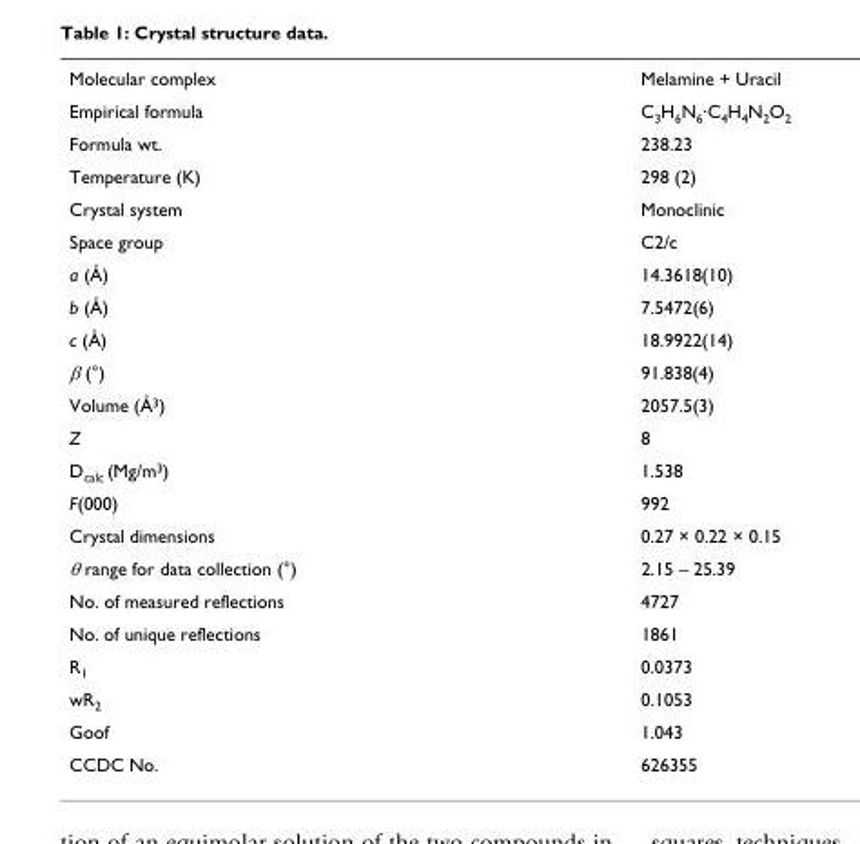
<table><tbody><tr><td>Molecular complex</td><td>Melamine + Uracil</td></tr><tr><td>Empirical formula</td><td>C<sub>3</sub>H<sub>6</sub>N<sub>6</sub>·C<sub>4</sub>H<sub>4</sub>N<sub>2</sub>O<sub>2</sub></td></tr><tr><td>Formula wt.</td><td>238.23</td></tr><tr><td>Temperature (K)</td><td>298 (2)</td></tr><tr><td>Crystal system</td><td>Monoclinic</td></tr><tr><td>Space group</td><td>C2/c</td></tr><tr><td>a (Å)</td><td>14.3618(10)</td></tr><tr><td>b (Å)</td><td>7.5472(6)</td></tr><tr><td>c (Å)</td><td>18.9922(14)</td></tr><tr><td>β (°)</td><td>91.838(4)</td></tr><tr><td>Volume (Å<sup>3</sup>)</td><td>2057.5(3)</td></tr><tr><td>Z</td><td>8</td></tr><tr><td>D<sub>calc</sub> (Mg/m<sup>3</sup>)</td><td>1.538</td></tr><tr><td>F(000)</td><td>992</td></tr><tr><td>Crystal dimensions</td><td>0.27 × 0.22 × 0.15</td></tr><tr><td>θ range for data collection (°)</td><td>2.15 – 25.39</td></tr><tr><td>No. of measured reflections</td><td>4727</td></tr><tr><td>No. of unique reflections</td><td>1861</td></tr><tr><td>R<sub>1</sub></td><td>0.0373</td></tr><tr><td>wR<sub>2</sub></td><td>0.1053</td></tr><tr><td>Goof</td><td>1.043</td></tr><tr><td>CCDC No.</td><td>626355</td></tr></tbody></table>